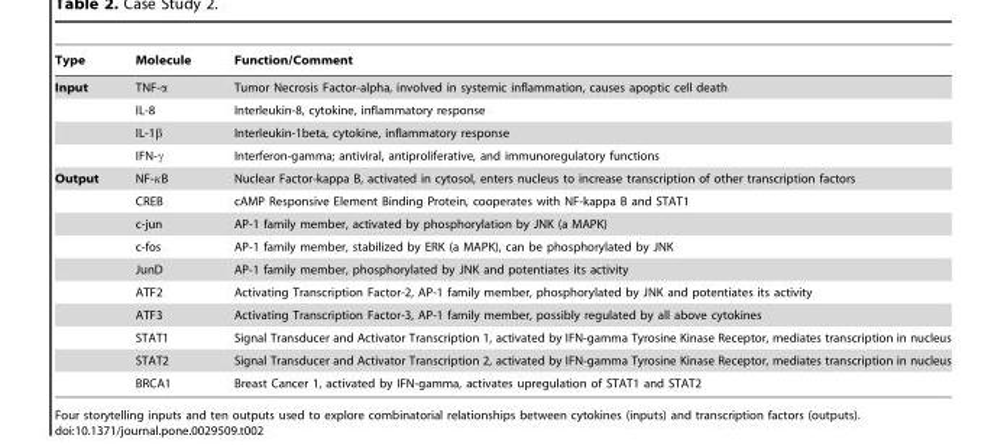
<table><thead><tr><td>Type</td><td>Molecule</td><td>Function/Comment</td></tr></thead><tbody><tr><td rowspan="4">Input</td><td>TNF-α</td><td>Tumor Necrosis Factor-alpha, involved in systemic inflammation, causes apoptic cell death</td></tr><tr><td>IL-8</td><td>Interleukin-8, cytokine, inflammatory response</td></tr><tr><td>IL-1β</td><td>Interleukin-1beta, cytokine, inflammatory response</td></tr><tr><td>IFN-γ</td><td>Interferon-gamma; antiviral, antiproliferative, and immunoregulatory functions</td></tr><tr><td rowspan="10">Output</td><td>NF-κB</td><td>Nuclear Factor-kappa B, activated in cytosol, enters nucleus to increase transcription of other transcription factors</td></tr><tr><td>CREB</td><td>cAMP Responsive Element Binding Protein, cooperates with NF-kappa B and STAT1</td></tr><tr><td>c-jun</td><td>AP-1 family member, activated by phosphorylation by JNK (a MAPK)</td></tr><tr><td>c-fos</td><td>AP-1 family member, stabilized by ERK (a MAPK), can be phosphorylated by JNK</td></tr><tr><td>JunD</td><td>AP-1 family member, phosphorylated by JNK and potentiates its activity</td></tr><tr><td>ATF2</td><td>Activating Transcription Factor-2, AP-1 family member, phosphorylated by JNK and potentiates its activity</td></tr><tr><td>ATF3</td><td>Activating Transcription Factor-3, AP-1 family member, possibly regulated by all above cytokines</td></tr><tr><td>STAT1</td><td>Signal Transducer and Activator Transcription 1, activated by IFN-gamma Tyrosine Kinase Receptor, mediates transcription in nucleus</td></tr><tr><td>STAT2</td><td>Signal Transducer and Activator Transcription 2, activated by IFN-gamma Tyrosine Kinase Receptor, mediates transcription in nucleus</td></tr><tr><td>BRCA1</td><td>Breast Cancer 1, activated by IFN-gamma, activates upregulation of STAT1 and STAT2</td></tr></tbody></table>